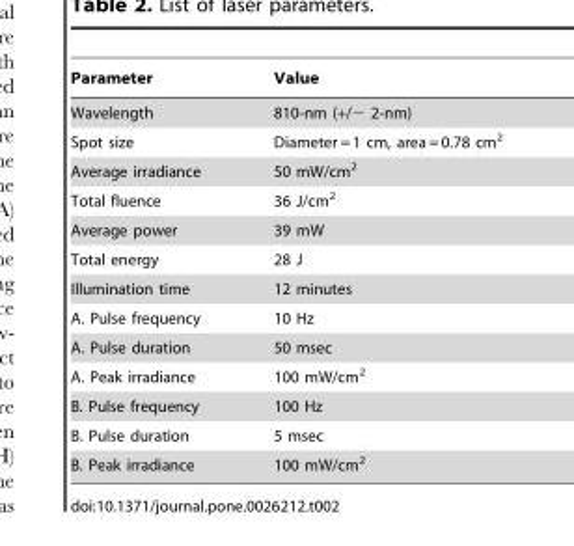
<table><thead><tr><td>Parameter</td><td>Value</td></tr></thead><tbody><tr><td>Wavelength</td><td>810-nm (+/− 2-nm)</td></tr><tr><td>Spot size</td><td>Diameter = 1 cm, area = 0.78 cm<sup>2</sup></td></tr><tr><td>Average irradiance</td><td>50 mW/cm<sup>2</sup></td></tr><tr><td>Total fluence</td><td>36 J/cm<sup>2</sup></td></tr><tr><td>Average power</td><td>39 mW</td></tr><tr><td>Total energy</td><td>28 J</td></tr><tr><td>Illumination time</td><td>12 minutes</td></tr><tr><td>A. Pulse frequency</td><td>10 Hz</td></tr><tr><td>A. Pulse duration</td><td>50 msec</td></tr><tr><td>A. Peak irradiance</td><td>100 mW/cm<sup>2</sup></td></tr><tr><td>B. Pulse frequency</td><td>100 Hz</td></tr><tr><td>B. Pulse duration</td><td>5 msec</td></tr><tr><td>B. Peak irradiance</td><td>100 mW/cm<sup>2</sup></td></tr></tbody></table>